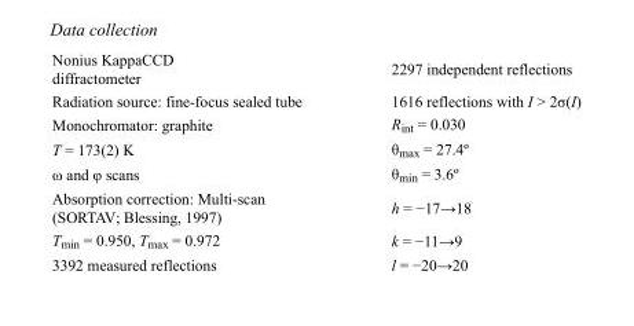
<table><tbody><tr><td>Nonius KappaCCD diffractometer</td><td>2297 independent reflections</td></tr><tr><td>Radiation source: fine-focus sealed tube</td><td>1616 reflections with I &gt; 2σ(I)</td></tr><tr><td>Monochromator: graphite</td><td>R<sub>int</sub> = 0.030</td></tr><tr><td>T = 173(2) K</td><td>θ<sub>max</sub> = 27.4º</td></tr><tr><td>ω and φ scans</td><td>θ<sub>min</sub> = 3.6º</td></tr><tr><td>Absorption correction: Multi-scan (SORTAV; Blessing, 1997)</td><td>h = −17→18</td></tr><tr><td>T<sub>min</sub> = 0.950, T<sub>max</sub> = 0.972</td><td>k = −11→9</td></tr><tr><td>3392 measured reflections</td><td>l = −20→20</td></tr></tbody></table>